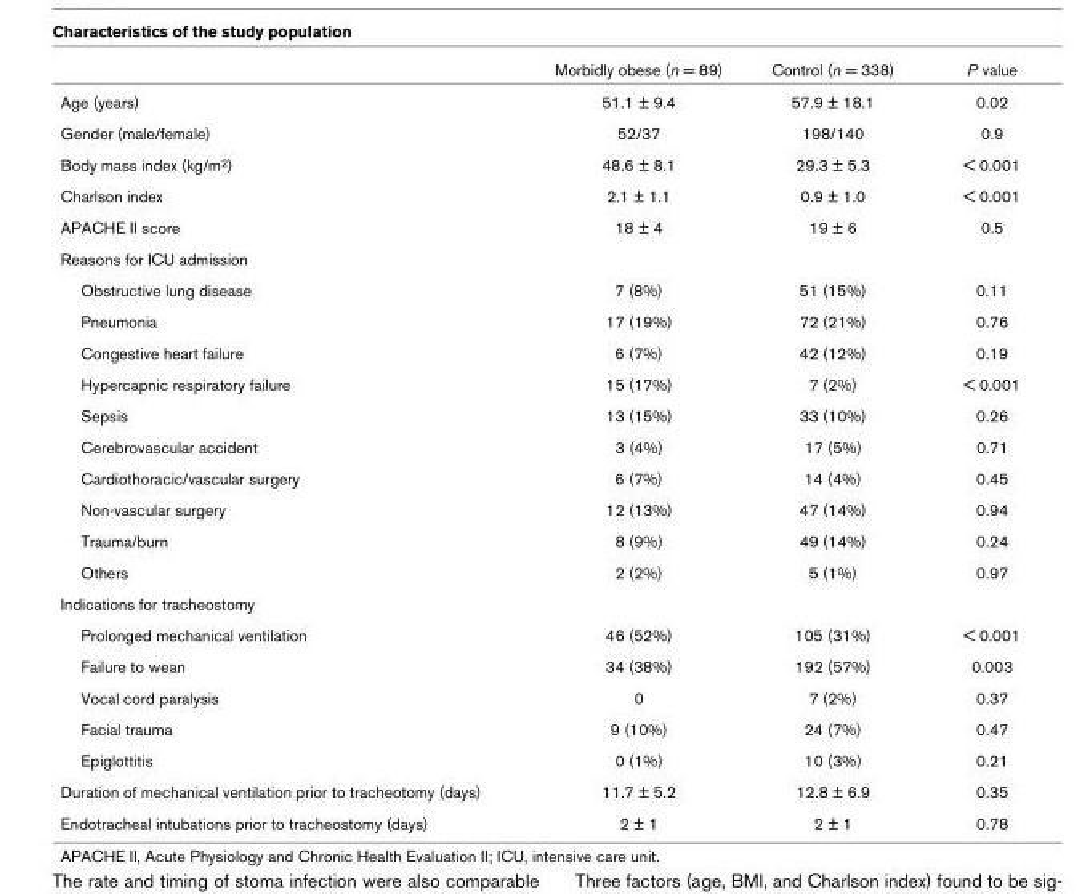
<table><thead><tr><td></td><td>Morbidly obese (n = 89)</td><td>Control (n = 338)</td><td>P value</td></tr></thead><tbody><tr><td>Age (years)</td><td>51.1 ± 9.4</td><td>57.9 ± 18.1</td><td>0.02</td></tr><tr><td>Gender (male/female)</td><td>52/37</td><td>198/140</td><td>0.9</td></tr><tr><td>Body mass index (kg/m<sup>2</sup>)</td><td>48.6 ± 8.1</td><td>29.3 ± 5.3</td><td>&lt; 0.001</td></tr><tr><td>Charlson index</td><td>2.1 ± 1.1</td><td>0.9 ± 1.0</td><td>&lt; 0.001</td></tr><tr><td>APACHE II score</td><td>18 ± 4</td><td>19 ± 6</td><td>0.5</td></tr><tr><td colspan="4">Reasons for ICU admission</td></tr><tr><td>Obstructive lung disease</td><td>7 (8%)</td><td>51 (15%)</td><td>0.11</td></tr><tr><td>Pneumonia</td><td>17 (19%)</td><td>72 (21%)</td><td>0.76</td></tr><tr><td>Congestive heart failure</td><td>6 (7%)</td><td>42 (12%)</td><td>0.19</td></tr><tr><td>Hypercapnic respiratory failure</td><td>15 (17%)</td><td>7 (2%)</td><td>&lt; 0.001</td></tr><tr><td>Sepsis</td><td>13 (15%)</td><td>33 (10%)</td><td>0.26</td></tr><tr><td>Cerebrovascular accident</td><td>3 (4%)</td><td>17 (5%)</td><td>0.71</td></tr><tr><td>Cardiothoracic/vascular surgery</td><td>6 (7%)</td><td>14 (4%)</td><td>0.45</td></tr><tr><td>Non-vascular surgery</td><td>12 (13%)</td><td>47 (14%)</td><td>0.94</td></tr><tr><td>Trauma/burn</td><td>8 (9%)</td><td>49 (14%)</td><td>0.24</td></tr><tr><td>Others</td><td>2 (2%)</td><td>5 (1%)</td><td>0.97</td></tr><tr><td colspan="4">Indications for tracheostomy</td></tr><tr><td>Prolonged mechanical ventilation</td><td>46 (52%)</td><td>105 (31%)</td><td>&lt; 0.001</td></tr><tr><td>Failure to wean</td><td>34 (38%)</td><td>192 (57%)</td><td>0.003</td></tr><tr><td>Vocal cord paralysis</td><td>0</td><td>7 (2%)</td><td>0.37</td></tr><tr><td>Facial trauma</td><td>9 (10%)</td><td>24 (7%)</td><td>0.47</td></tr><tr><td>Epiglottitis</td><td>0 (1%)</td><td>10 (3%)</td><td>0.21</td></tr><tr><td>Duration of mechanical ventilation prior to tracheotomy (days)</td><td>11.7 ± 5.2</td><td>12.8 ± 6.9</td><td>0.35</td></tr><tr><td>Endotracheal intubations prior to tracheostomy (days)</td><td>2 ± 1</td><td>2 ± 1</td><td>0.78</td></tr></tbody></table>